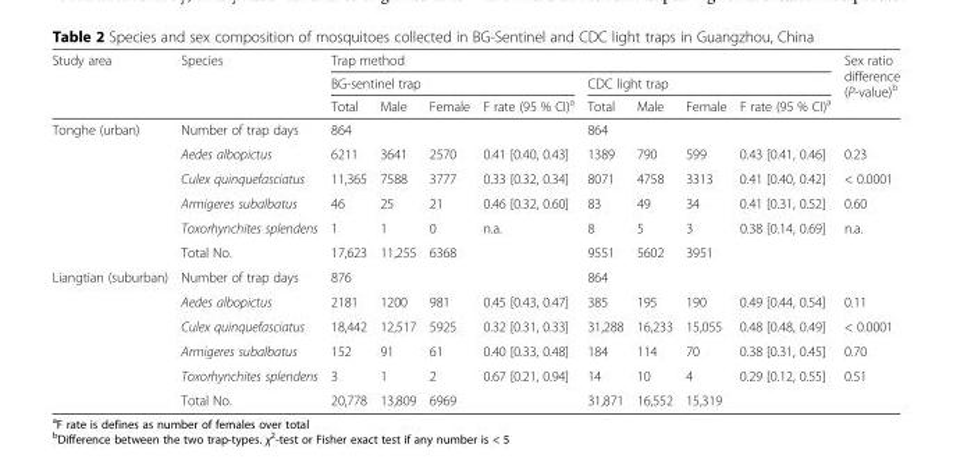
<table><thead><tr><td rowspan="3">Study area</td><td rowspan="3">Species</td><td colspan="8">Trap method</td><td rowspan="3">Sex ratio difference (P-value)<sup>b</sup></td></tr><tr><td colspan="4">BG-sentinel trap</td><td colspan="4">CDC light trap</td></tr><tr><td>Total</td><td>Male</td><td>Female</td><td>F rate (95 % CI)<sup>a</sup></td><td>Total</td><td>Male</td><td>Female</td><td>F rate (95 % CI)<sup>a</sup></td></tr></thead><tbody><tr><td rowspan="6">Tonghe (urban)</td><td>Number of trap days</td><td>864</td><td></td><td></td><td></td><td>864</td><td></td><td></td><td></td><td></td></tr><tr><td>Aedes albopictus</td><td>6211</td><td>3641</td><td>2570</td><td>0.41 [0.40, 0.43]</td><td>1389</td><td>790</td><td>599</td><td>0.43 [0.41, 0.46]</td><td>0.23</td></tr><tr><td>Culex quinquefasciatus</td><td>11,365</td><td>7588</td><td>3777</td><td>0.33 [0.32, 0.34]</td><td>8071</td><td>4758</td><td>3313</td><td>0.41 [0.40, 0.42]</td><td>&lt; 0.0001</td></tr><tr><td>Armigeres subalbatus</td><td>46</td><td>25</td><td>21</td><td>0.46 [0.32, 0.60]</td><td>83</td><td>49</td><td>34</td><td>0.41 [0.31, 0.52]</td><td>0.60</td></tr><tr><td>Toxorhynchites splendens</td><td>1</td><td>1</td><td>0</td><td>n.a.</td><td>8</td><td>5</td><td>3</td><td>0.38 [0.14, 0.69]</td><td>n.a.</td></tr><tr><td>Total No.</td><td>17,623</td><td>11,255</td><td>6368</td><td></td><td>9551</td><td>5602</td><td>3951</td><td></td><td></td></tr><tr><td rowspan="6">Liangtian (suburban)</td><td>Number of trap days</td><td>876</td><td></td><td></td><td></td><td>864</td><td></td><td></td><td></td><td></td></tr><tr><td>Aedes albopictus</td><td>2181</td><td>1200</td><td>981</td><td>0.45 [0.43, 0.47]</td><td>385</td><td>195</td><td>190</td><td>0.49 [0.44, 0.54]</td><td>0.11</td></tr><tr><td>Culex quinquefasciatus</td><td>18,442</td><td>12,517</td><td>5925</td><td>0.32 [0.31, 0.33]</td><td>31,288</td><td>16,233</td><td>15,055</td><td>0.48 [0.48, 0.49]</td><td>&lt; 0.0001</td></tr><tr><td>Armigeres subalbatus</td><td>152</td><td>91</td><td>61</td><td>0.40 [0.33, 0.48]</td><td>184</td><td>114</td><td>70</td><td>0.38 [0.31, 0.45]</td><td>0.70</td></tr><tr><td>Toxorhynchites splendens</td><td>3</td><td>1</td><td>2</td><td>0.67 [0.21, 0.94]</td><td>14</td><td>10</td><td>4</td><td>0.29 [0.12, 0.55]</td><td>0.51</td></tr><tr><td>Total No.</td><td>20,778</td><td>13,809</td><td>6969</td><td></td><td>31,871</td><td>16,552</td><td>15,319</td><td></td><td></td></tr></tbody></table>